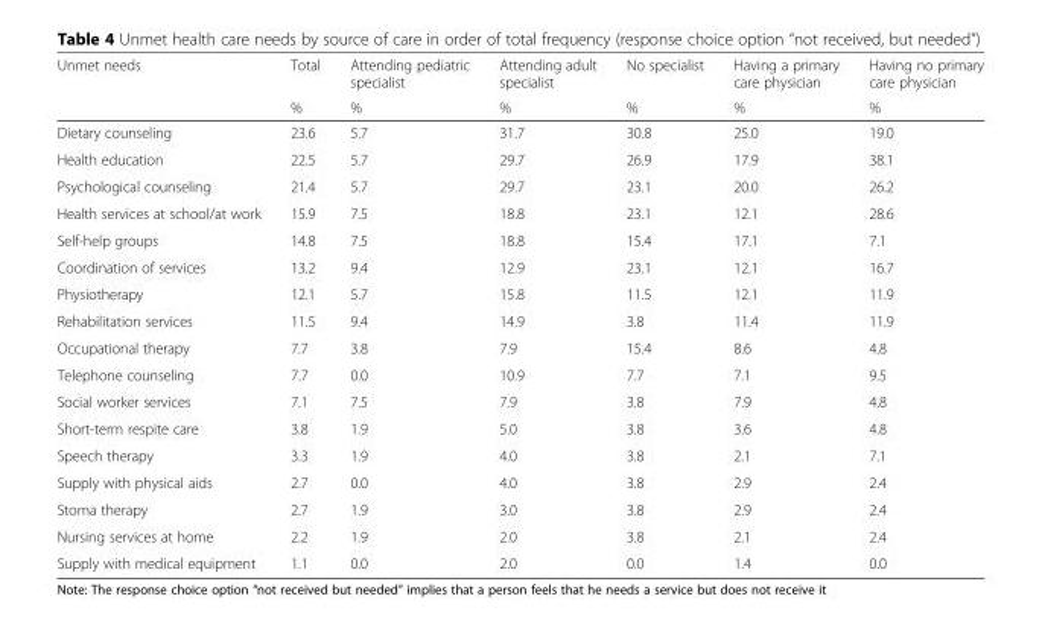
<table><thead><tr><td rowspan="2">Unmet needs</td><td rowspan="2">Total %</td><td rowspan="2">Attending pediatric specialist %</td><td rowspan="2">Attending adult specialist %</td><td rowspan="2">No specialist %</td><td rowspan="2">Having a primary care physician %</td><td rowspan="2">Having no primary care physician %</td></tr><tr></tr></thead><tbody><tr><td>Dietary counseling</td><td>23.6</td><td>5.7</td><td>31.7</td><td>30.8</td><td>25.0</td><td>19.0</td></tr><tr><td>Health education</td><td>22.5</td><td>5.7</td><td>29.7</td><td>26.9</td><td>17.9</td><td>38.1</td></tr><tr><td>Psychological counseling</td><td>21.4</td><td>5.7</td><td>29.7</td><td>23.1</td><td>20.0</td><td>26.2</td></tr><tr><td>Health services at school/at work</td><td>15.9</td><td>7.5</td><td>18.8</td><td>23.1</td><td>12.1</td><td>28.6</td></tr><tr><td>Self-help groups</td><td>14.8</td><td>7.5</td><td>18.8</td><td>15.4</td><td>17.1</td><td>7.1</td></tr><tr><td>Coordination of services</td><td>13.2</td><td>9.4</td><td>12.9</td><td>23.1</td><td>12.1</td><td>16.7</td></tr><tr><td>Physiotherapy</td><td>12.1</td><td>5.7</td><td>15.8</td><td>11.5</td><td>12.1</td><td>11.9</td></tr><tr><td>Rehabilitation services</td><td>11.5</td><td>9.4</td><td>14.9</td><td>3.8</td><td>11.4</td><td>11.9</td></tr><tr><td>Occupational therapy</td><td>7.7</td><td>3.8</td><td>7.9</td><td>15.4</td><td>8.6</td><td>4.8</td></tr><tr><td>Telephone counseling</td><td>7.7</td><td>0.0</td><td>10.9</td><td>7.7</td><td>7.1</td><td>9.5</td></tr><tr><td>Social worker services</td><td>7.1</td><td>7.5</td><td>7.9</td><td>3.8</td><td>7.9</td><td>4.8</td></tr><tr><td>Short-term respite care</td><td>3.8</td><td>1.9</td><td>5.0</td><td>3.8</td><td>3.6</td><td>4.8</td></tr><tr><td>Speech therapy</td><td>3.3</td><td>1.9</td><td>4.0</td><td>3.8</td><td>2.1</td><td>7.1</td></tr><tr><td>Supply with physical aids</td><td>2.7</td><td>0.0</td><td>4.0</td><td>3.8</td><td>2.9</td><td>2.4</td></tr><tr><td>Stoma therapy</td><td>2.7</td><td>1.9</td><td>3.0</td><td>3.8</td><td>2.9</td><td>2.4</td></tr><tr><td>Nursing services at home</td><td>2.2</td><td>1.9</td><td>2.0</td><td>3.8</td><td>2.1</td><td>2.4</td></tr><tr><td>Supply with medical equipment</td><td>1.1</td><td>0.0</td><td>2.0</td><td>0.0</td><td>1.4</td><td>0.0</td></tr></tbody></table>